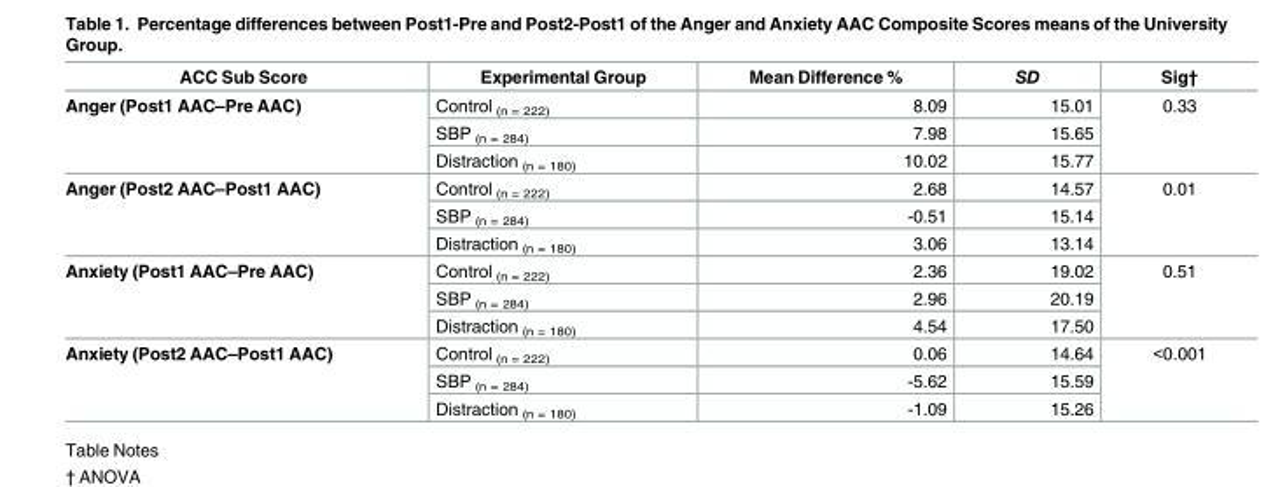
<table><thead><tr><td>ACC Sub Score</td><td>Experimental Group</td><td>Mean Difference %</td><td>SD</td><td>Sig†</td></tr></thead><tbody><tr><td rowspan="3">Anger (Post1 AAC–Pre AAC)</td><td>Control <sub>(n = 222)</sub></td><td>8.09</td><td>15.01</td><td rowspan="3">0.33</td></tr><tr><td>SBP <sub>(n = 284)</sub></td><td>7.98</td><td>15.65</td></tr><tr><td>Distraction <sub>(n = 180)</sub></td><td>10.02</td><td>15.77</td></tr><tr><td rowspan="3">Anger (Post2 AAC–Post1 AAC)</td><td>Control <sub>(n = 222)</sub></td><td>2.68</td><td>14.57</td><td rowspan="3">0.01</td></tr><tr><td>SBP <sub>(n = 284)</sub></td><td>-0.51</td><td>15.14</td></tr><tr><td>Distraction <sub>(n = 180)</sub></td><td>3.06</td><td>13.14</td></tr><tr><td rowspan="3">Anxiety (Post1 AAC–Pre AAC)</td><td>Control <sub>(n = 222)</sub></td><td>2.36</td><td>19.02</td><td rowspan="3">0.51</td></tr><tr><td>SBP <sub>(n = 284)</sub></td><td>2.96</td><td>20.19</td></tr><tr><td>Distraction <sub>(n = 180)</sub></td><td>4.54</td><td>17.50</td></tr><tr><td rowspan="3">Anxiety (Post2 AAC–Post1 AAC)</td><td>Control <sub>(n = 222)</sub></td><td>0.06</td><td>14.64</td><td rowspan="3">&lt;0.001</td></tr><tr><td>SBP <sub>(n = 284)</sub></td><td>-5.62</td><td>15.59</td></tr><tr><td>Distraction <sub>(n = 180)</sub></td><td>-1.09</td><td>15.26</td></tr></tbody></table>